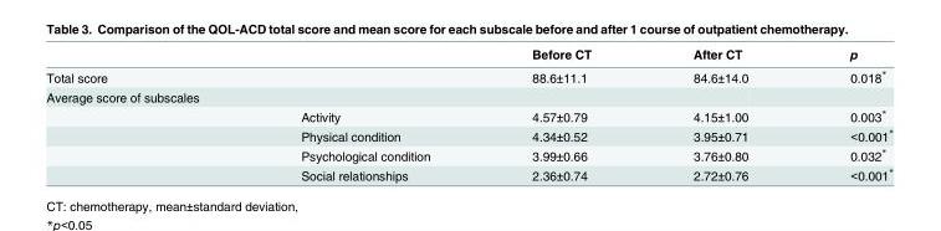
<table><thead><tr><td></td><td></td><td>Before CT</td><td>After CT</td><td>p</td></tr></thead><tbody><tr><td>Total score</td><td></td><td>88.6±11.1</td><td>84.6±14.0</td><td>0.018*</td></tr><tr><td colspan="5">Average score of subscales</td></tr><tr><td></td><td>Activity</td><td>4.57±0.79</td><td>4.15±1.00</td><td>0.003*</td></tr><tr><td></td><td>Physical condition</td><td>4.34±0.52</td><td>3.95±0.71</td><td>&lt;0.001*</td></tr><tr><td></td><td>Psychological condition</td><td>3.99±0.66</td><td>3.76±0.80</td><td>0.032*</td></tr><tr><td></td><td>Social relationships</td><td>2.36±0.74</td><td>2.72±0.76</td><td>&lt;0.001*</td></tr></tbody></table>